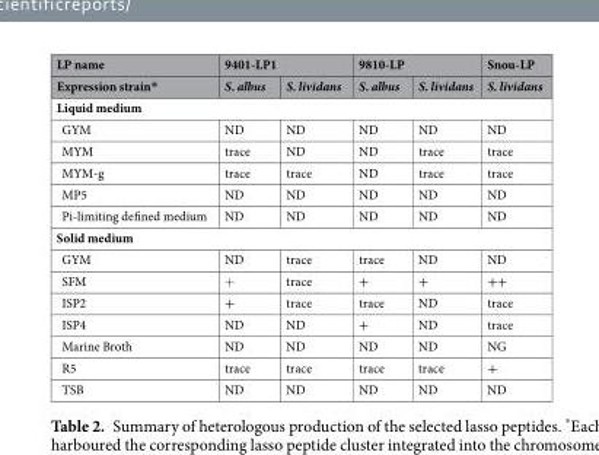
<table><thead><tr><td rowspan="2">LP name Expression strain*</td><td colspan="2">9401-LP1</td><td colspan="2">9810-LP</td><td rowspan="2">Snou-LP S. lividans</td></tr><tr><td>S. albus</td><td>S. lividans</td><td>S. albus</td><td>S. lividans</td></tr></thead><tbody><tr><td colspan="6">Liquid medium</td></tr><tr><td>GYM</td><td>ND</td><td>ND</td><td>ND</td><td>ND</td><td>ND</td></tr><tr><td>MYM</td><td>trace</td><td>ND</td><td>ND</td><td>trace</td><td>trace</td></tr><tr><td>MYM-g</td><td>trace</td><td>trace</td><td>ND</td><td>trace</td><td>trace</td></tr><tr><td>MP5</td><td>ND</td><td>ND</td><td>ND</td><td>ND</td><td>ND</td></tr><tr><td>Pi-limiting defined medium</td><td>ND</td><td>ND</td><td>ND</td><td>ND</td><td>ND</td></tr><tr><td colspan="6">Solid medium</td></tr><tr><td>GYM</td><td>ND</td><td>trace</td><td>trace</td><td>ND</td><td>ND</td></tr><tr><td>SFM</td><td>+</td><td>trace</td><td>+</td><td>+</td><td>++</td></tr><tr><td>ISP2</td><td>+</td><td>trace</td><td>trace</td><td>ND</td><td>trace</td></tr><tr><td>ISP4</td><td>ND</td><td>ND</td><td>+</td><td>ND</td><td>trace</td></tr><tr><td>Marine Broth</td><td>ND</td><td>ND</td><td>ND</td><td>ND</td><td>NG</td></tr><tr><td>R5</td><td>trace</td><td>trace</td><td>trace</td><td>trace</td><td>+</td></tr><tr><td>TSB</td><td>ND</td><td>ND</td><td>ND</td><td>ND</td><td>ND</td></tr></tbody></table>